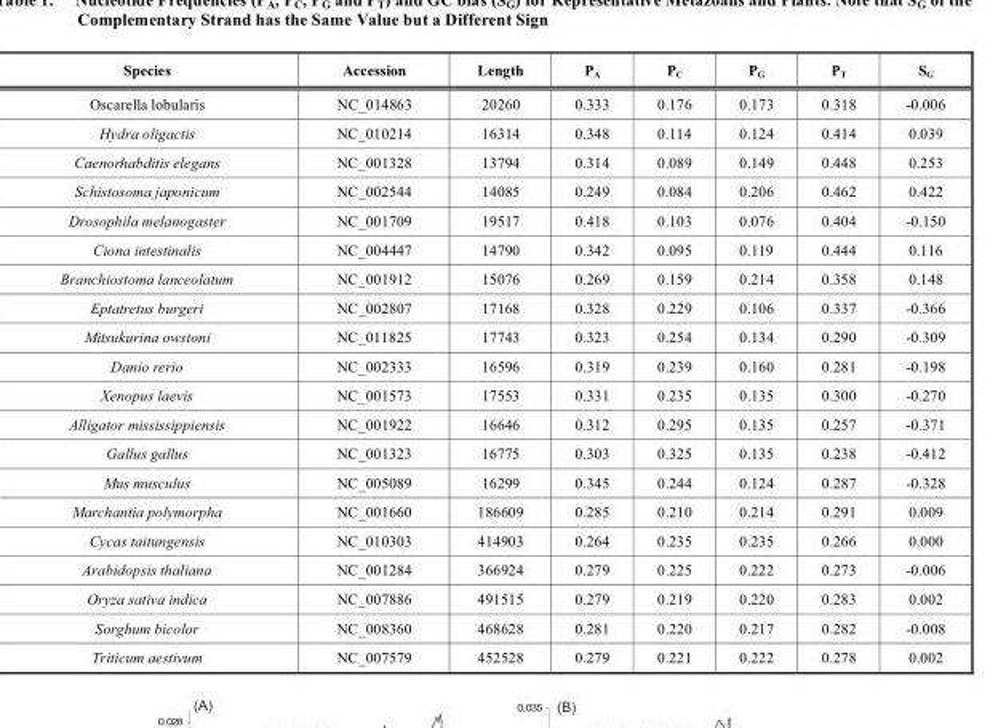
<table><thead><tr><td>Species</td><td>Accession</td><td>Length</td><td>P<sub>A</sub></td><td>P<sub>C</sub></td><td>P<sub>G</sub></td><td>P<sub>T</sub></td><td>S<sub>G</sub></td></tr></thead><tbody><tr><td>Oscarella lobularis</td><td>NC_014863</td><td>20260</td><td>0.333</td><td>0.176</td><td>0.173</td><td>0.318</td><td>-0.006</td></tr><tr><td>Hydra oligactis</td><td>NC_010214</td><td>16314</td><td>0.348</td><td>0.114</td><td>0.124</td><td>0.414</td><td>0.039</td></tr><tr><td>Caenorhabditis elegans</td><td>NC_001328</td><td>13794</td><td>0.314</td><td>0.089</td><td>0.149</td><td>0.448</td><td>0.253</td></tr><tr><td>Schistosoma japonicum</td><td>NC_002544</td><td>14085</td><td>0.249</td><td>0.084</td><td>0.206</td><td>0.462</td><td>0.422</td></tr><tr><td>Drosophila melanogaster</td><td>NC_001709</td><td>19517</td><td>0.418</td><td>0.103</td><td>0.076</td><td>0.404</td><td>-0.150</td></tr><tr><td>Ciona intestinalis</td><td>NC_004447</td><td>14790</td><td>0.342</td><td>0.095</td><td>0.119</td><td>0.444</td><td>0.116</td></tr><tr><td>Branchiostoma lanceolatum</td><td>NC_001912</td><td>15076</td><td>0.269</td><td>0.159</td><td>0.214</td><td>0.358</td><td>0.148</td></tr><tr><td>Eptatretus burgeri</td><td>NC_002807</td><td>17168</td><td>0.328</td><td>0.229</td><td>0.106</td><td>0.337</td><td>-0.366</td></tr><tr><td>Mitsukurina owstoni</td><td>NC_011825</td><td>17743</td><td>0.323</td><td>0.254</td><td>0.134</td><td>0.290</td><td>-0.309</td></tr><tr><td>Danio rerio</td><td>NC_002333</td><td>16596</td><td>0.319</td><td>0.239</td><td>0.160</td><td>0.281</td><td>-0.198</td></tr><tr><td>Xenopus laevis</td><td>NC_001573</td><td>17553</td><td>0.331</td><td>0.235</td><td>0.135</td><td>0.300</td><td>-0.270</td></tr><tr><td>Alligator mississippiensis</td><td>NC_001922</td><td>16646</td><td>0.312</td><td>0.295</td><td>0.135</td><td>0.257</td><td>-0.371</td></tr><tr><td>Gallus gallus</td><td>NC_001323</td><td>16775</td><td>0.303</td><td>0.325</td><td>0.135</td><td>0.238</td><td>-0.412</td></tr><tr><td>Mus musculus</td><td>NC_005089</td><td>16299</td><td>0.345</td><td>0.244</td><td>0.124</td><td>0.287</td><td>-0.328</td></tr><tr><td>Marchantia polymorpha</td><td>NC_001660</td><td>186609</td><td>0.285</td><td>0.210</td><td>0.214</td><td>0.291</td><td>0.009</td></tr><tr><td>Cycas taitungensis</td><td>NC_010303</td><td>414903</td><td>0.264</td><td>0.235</td><td>0.235</td><td>0.266</td><td>0.000</td></tr><tr><td>Arabidopsis thaliana</td><td>NC_001284</td><td>366924</td><td>0.279</td><td>0.225</td><td>0.222</td><td>0.273</td><td>-0.006</td></tr><tr><td>Oryza sativa indica</td><td>NC_007886</td><td>491515</td><td>0.279</td><td>0.219</td><td>0.220</td><td>0.283</td><td>0.002</td></tr><tr><td>Sorghum bicolor</td><td>NC_008360</td><td>468628</td><td>0.281</td><td>0.220</td><td>0.217</td><td>0.282</td><td>-0.008</td></tr><tr><td>Triticum aestivum</td><td>NC_007579</td><td>452528</td><td>0.279</td><td>0.221</td><td>0.222</td><td>0.278</td><td>0.002</td></tr></tbody></table>